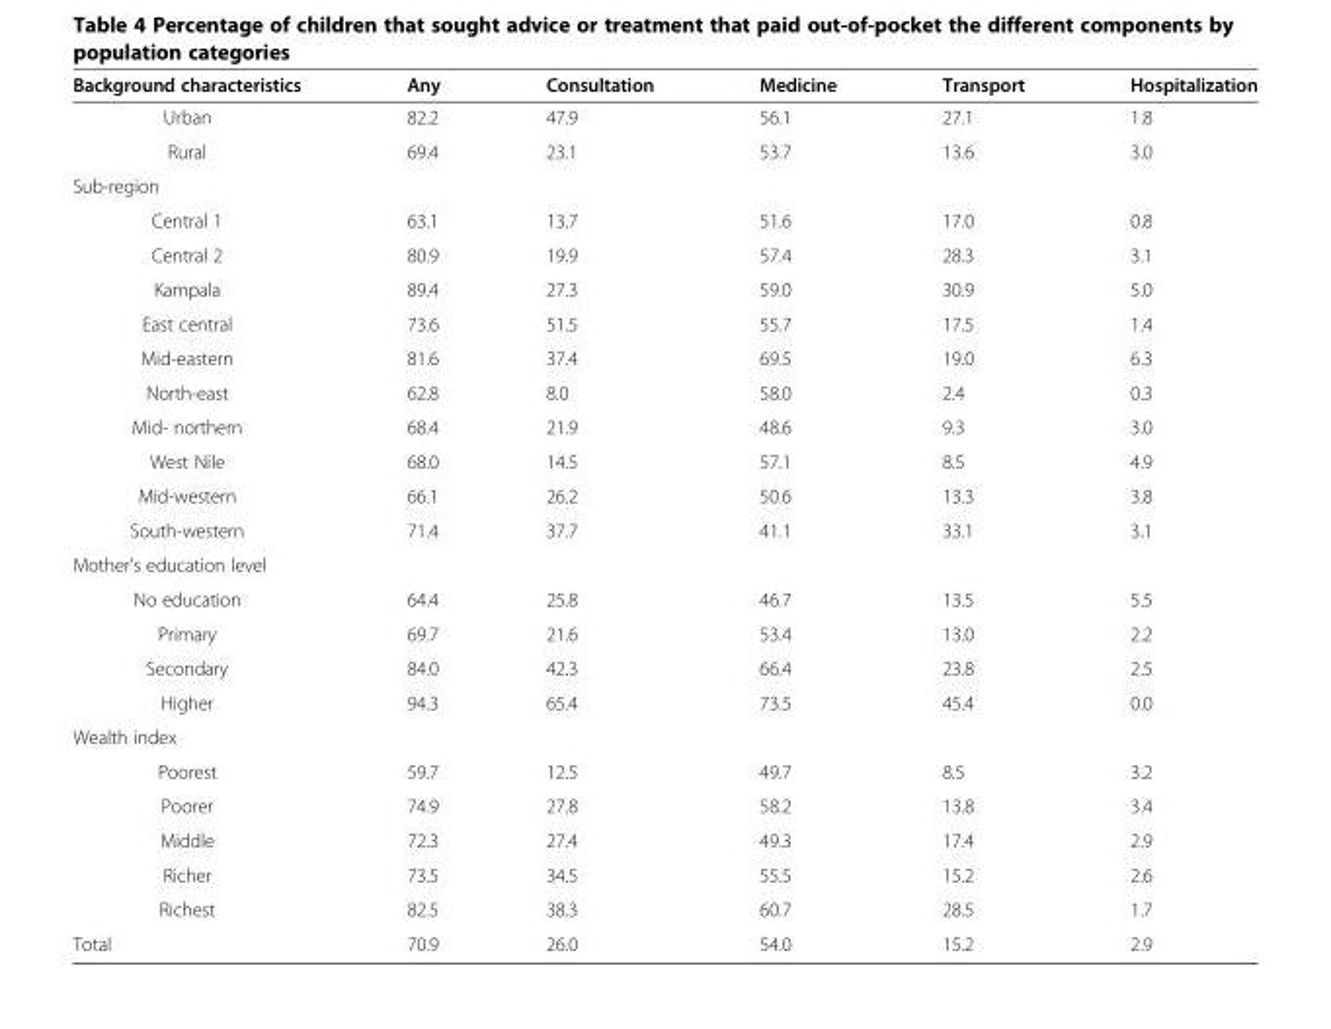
<table><thead><tr><td>Background characteristics</td><td>Any</td><td>Consultation</td><td>Medicine</td><td>Transport</td><td>Hospitalization</td></tr></thead><tbody><tr><td>Urban</td><td>82.2</td><td>47.9</td><td>56.1</td><td>27.1</td><td>1.8</td></tr><tr><td>Rural</td><td>69.4</td><td>23.1</td><td>53.7</td><td>13.6</td><td>3.0</td></tr><tr><td colspan="6">Sub-region</td></tr><tr><td>Central 1</td><td>63.1</td><td>13.7</td><td>51.6</td><td>17.0</td><td>0.8</td></tr><tr><td>Central 2</td><td>80.9</td><td>19.9</td><td>57.4</td><td>28.3</td><td>3.1</td></tr><tr><td>Kampala</td><td>89.4</td><td>27.3</td><td>59.0</td><td>30.9</td><td>5.0</td></tr><tr><td>East central</td><td>73.6</td><td>51.5</td><td>55.7</td><td>17.5</td><td>1.4</td></tr><tr><td>Mid-eastern</td><td>81.6</td><td>37.4</td><td>69.5</td><td>19.0</td><td>6.3</td></tr><tr><td>North-east</td><td>62.8</td><td>8.0</td><td>58.0</td><td>2.4</td><td>0.3</td></tr><tr><td>Mid- northern</td><td>68.4</td><td>21.9</td><td>48.6</td><td>9.3</td><td>3.0</td></tr><tr><td>West Nile</td><td>68.0</td><td>14.5</td><td>57.1</td><td>8.5</td><td>4.9</td></tr><tr><td>Mid-western</td><td>66.1</td><td>26.2</td><td>50.6</td><td>13.3</td><td>3.8</td></tr><tr><td>South-western</td><td>71.4</td><td>37.7</td><td>41.1</td><td>33.1</td><td>3.1</td></tr><tr><td colspan="6">Mother&#x27;s education level</td></tr><tr><td>No education</td><td>64.4</td><td>25.8</td><td>46.7</td><td>13.5</td><td>5.5</td></tr><tr><td>Primary</td><td>69.7</td><td>21.6</td><td>53.4</td><td>13.0</td><td>2.2</td></tr><tr><td>Secondary</td><td>84.0</td><td>42.3</td><td>66.4</td><td>23.8</td><td>2.5</td></tr><tr><td>Higher</td><td>94.3</td><td>65.4</td><td>73.5</td><td>45.4</td><td>0.0</td></tr><tr><td colspan="6">Wealth index</td></tr><tr><td>Poorest</td><td>59.7</td><td>12.5</td><td>49.7</td><td>8.5</td><td>3.2</td></tr><tr><td>Poorer</td><td>74.9</td><td>27.8</td><td>58.2</td><td>13.8</td><td>3.4</td></tr><tr><td>Middle</td><td>72.3</td><td>27.4</td><td>49.3</td><td>17.4</td><td>2.9</td></tr><tr><td>Richer</td><td>73.5</td><td>34.5</td><td>55.5</td><td>15.2</td><td>2.6</td></tr><tr><td>Richest</td><td>82.5</td><td>38.3</td><td>60.7</td><td>28.5</td><td>1.7</td></tr><tr><td>Total</td><td>70.9</td><td>26.0</td><td>54.0</td><td>15.2</td><td>2.9</td></tr></tbody></table>